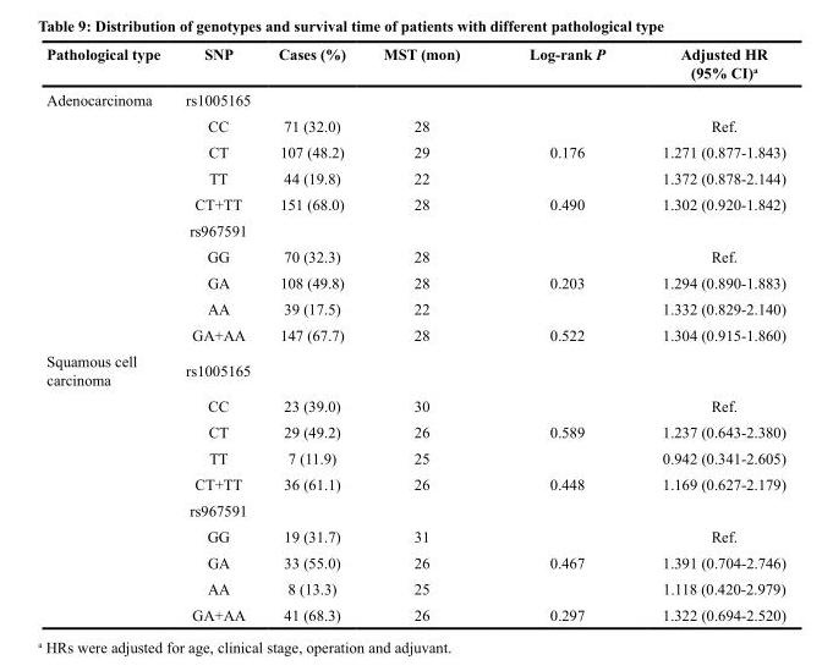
<table><thead><tr><td>Pathological type</td><td>SNP</td><td>Cases (%)</td><td>MST (mon)</td><td>Log-rank P</td><td>Adjusted HR (95% CI)<sup>a</sup></td></tr></thead><tbody><tr><td rowspan="10">Adenocarcinoma</td><td>rs1005165</td><td></td><td></td><td></td><td></td></tr><tr><td>CC</td><td>71 (32.0)</td><td>28</td><td rowspan="3">0.176</td><td>Ref.</td></tr><tr><td>CT</td><td>107 (48.2)</td><td>29</td><td>1.271 (0.877-1.843)</td></tr><tr><td>TT</td><td>44 (19.8)</td><td>22</td><td>1.372 (0.878-2.144)</td></tr><tr><td>CT+TT</td><td>151 (68.0)</td><td>28</td><td>0.490</td><td>1.302 (0.920-1.842)</td></tr><tr><td>rs967591</td><td></td><td></td><td></td><td></td></tr><tr><td>GG</td><td>70 (32.3)</td><td>28</td><td rowspan="3">0.203</td><td>Ref.</td></tr><tr><td>GA</td><td>108 (49.8)</td><td>28</td><td>1.294 (0.890-1.883)</td></tr><tr><td>AA</td><td>39 (17.5)</td><td>22</td><td>1.332 (0.829-2.140)</td></tr><tr><td>GA+AA</td><td>147 (67.7)</td><td>28</td><td>0.522</td><td>1.304 (0.915-1.860)</td></tr><tr><td rowspan="10">Squamous cell carcinoma</td><td>rs1005165</td><td></td><td></td><td></td><td></td></tr><tr><td>CC</td><td>23 (39.0)</td><td>30</td><td rowspan="3">0.589</td><td>Ref.</td></tr><tr><td>CT</td><td>29 (49.2)</td><td>26</td><td>1.237 (0.643-2.380)</td></tr><tr><td>TT</td><td>7 (11.9)</td><td>25</td><td>0.942 (0.341-2.605)</td></tr><tr><td>CT+TT</td><td>36 (61.1)</td><td>26</td><td>0.448</td><td>1.169 (0.627-2.179)</td></tr><tr><td>rs967591</td><td></td><td></td><td></td><td></td></tr><tr><td>GG</td><td>19 (31.7)</td><td>31</td><td rowspan="3">0.467</td><td>Ref.</td></tr><tr><td>GA</td><td>33 (55.0)</td><td>26</td><td>1.391 (0.704-2.746)</td></tr><tr><td>AA</td><td>8 (13.3)</td><td>25</td><td>1.118 (0.420-2.979)</td></tr><tr><td>GA+AA</td><td>41 (68.3)</td><td>26</td><td>0.297</td><td>1.322 (0.694-2.520)</td></tr></tbody></table>